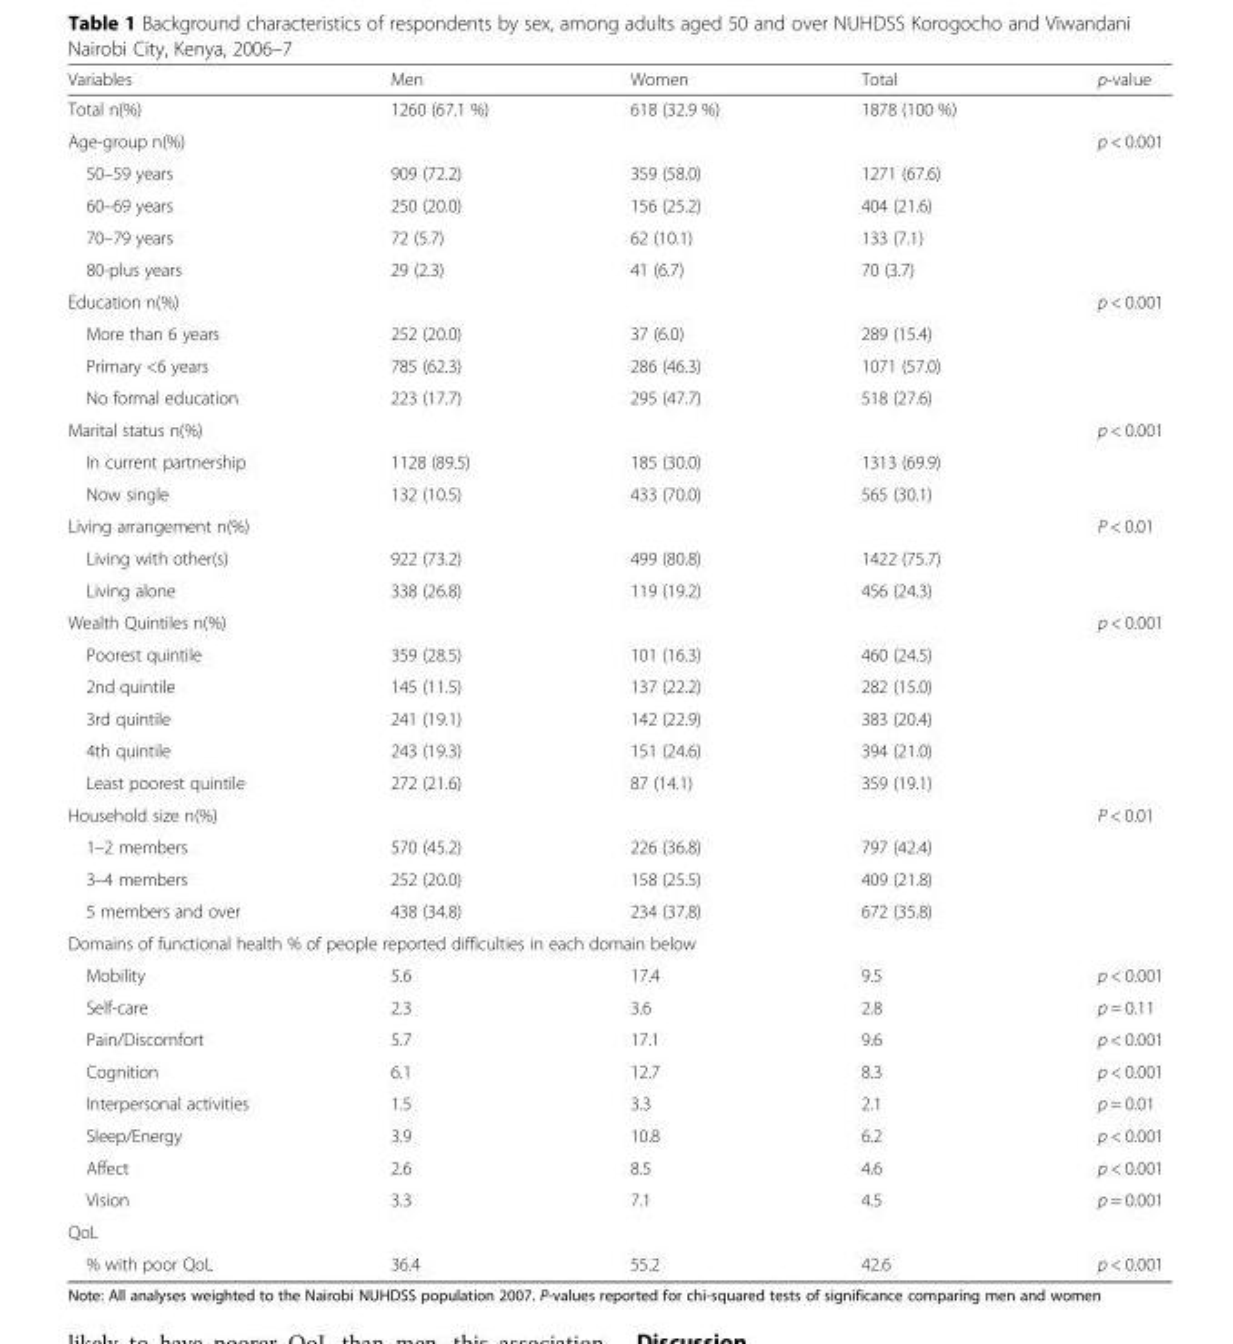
<table><thead><tr><td>Variables</td><td>Men</td><td>Women</td><td>Total</td><td>p-value</td></tr></thead><tbody><tr><td>Total n(%)</td><td>1260 (67.1 %)</td><td>618 (32.9 %)</td><td>1878 (100 %)</td><td></td></tr><tr><td>Age-group n(%)</td><td></td><td></td><td></td><td>p &lt; 0.001</td></tr><tr><td>50–59 years</td><td>909 (72.2)</td><td>359 (58.0)</td><td>1271 (67.6)</td><td></td></tr><tr><td>60–69 years</td><td>250 (20.0)</td><td>156 (25.2)</td><td>404 (21.6)</td><td></td></tr><tr><td>70–79 years</td><td>72 (5.7)</td><td>62 (10.1)</td><td>133 (7.1)</td><td></td></tr><tr><td>80-plus years</td><td>29 (2.3)</td><td>41 (6.7)</td><td>70 (3.7)</td><td></td></tr><tr><td>Education n(%)</td><td></td><td></td><td></td><td>p &lt; 0.001</td></tr><tr><td>More than 6 years</td><td>252 (20.0)</td><td>37 (6.0)</td><td>289 (15.4)</td><td></td></tr><tr><td>Primary &lt;6 years</td><td>785 (62.3)</td><td>286 (46.3)</td><td>1071 (57.0)</td><td></td></tr><tr><td>No formal education</td><td>223 (17.7)</td><td>295 (47.7)</td><td>518 (27.6)</td><td></td></tr><tr><td>Marital status n(%)</td><td></td><td></td><td></td><td>p &lt; 0.001</td></tr><tr><td>In current partnership</td><td>1128 (89.5)</td><td>185 (30.0)</td><td>1313 (69.9)</td><td></td></tr><tr><td>Now single</td><td>132 (10.5)</td><td>433 (70.0)</td><td>565 (30.1)</td><td></td></tr><tr><td>Living arrangement n(%)</td><td></td><td></td><td></td><td>P &lt; 0.01</td></tr><tr><td>Living with other(s)</td><td>922 (73.2)</td><td>499 (80.8)</td><td>1422 (75.7)</td><td></td></tr><tr><td>Living alone</td><td>338 (26.8)</td><td>119 (19.2)</td><td>456 (24.3)</td><td></td></tr><tr><td>Wealth Quintiles n(%)</td><td></td><td></td><td></td><td>p &lt; 0.001</td></tr><tr><td>Poorest quintile</td><td>359 (28.5)</td><td>101 (16.3)</td><td>460 (24.5)</td><td></td></tr><tr><td>2nd quintile</td><td>145 (11.5)</td><td>137 (22.2)</td><td>282 (15.0)</td><td></td></tr><tr><td>3rd quintile</td><td>241 (19.1)</td><td>142 (22.9)</td><td>383 (20.4)</td><td></td></tr><tr><td>4th quintile</td><td>243 (19.3)</td><td>151 (24.6)</td><td>394 (21.0)</td><td></td></tr><tr><td>Least poorest quintile</td><td>272 (21.6)</td><td>87 (14.1)</td><td>359 (19.1)</td><td></td></tr><tr><td>Household size n(%)</td><td></td><td></td><td></td><td>P &lt; 0.01</td></tr><tr><td>1–2 members</td><td>570 (45.2)</td><td>226 (36.8)</td><td>797 (42.4)</td><td></td></tr><tr><td>3–4 members</td><td>252 (20.0)</td><td>158 (25.5)</td><td>409 (21.8)</td><td></td></tr><tr><td>5 members and over</td><td>438 (34.8)</td><td>234 (37.8)</td><td>672 (35.8)</td><td></td></tr><tr><td colspan="5">Domains of functional health % of people reported difficulties in each domain below</td></tr><tr><td>Mobility</td><td>5.6</td><td>17.4</td><td>9.5</td><td>p &lt; 0.001</td></tr><tr><td>Self-care</td><td>2.3</td><td>3.6</td><td>2.8</td><td>p = 0.11</td></tr><tr><td>Pain/Discomfort</td><td>5.7</td><td>17.1</td><td>9.6</td><td>p &lt; 0.001</td></tr><tr><td>Cognition</td><td>6.1</td><td>12.7</td><td>8.3</td><td>p &lt; 0.001</td></tr><tr><td>Interpersonal activities</td><td>1.5</td><td>3.3</td><td>2.1</td><td>p = 0.01</td></tr><tr><td>Sleep/Energy</td><td>3.9</td><td>10.8</td><td>6.2</td><td>p &lt; 0.001</td></tr><tr><td>Affect</td><td>2.6</td><td>8.5</td><td>4.6</td><td>p &lt; 0.001</td></tr><tr><td>Vision</td><td>3.3</td><td>7.1</td><td>4.5</td><td>p = 0.001</td></tr><tr><td colspan="5">QoL</td></tr><tr><td>% with poor QoL</td><td>36.4</td><td>55.2</td><td>42.6</td><td>p &lt; 0.001</td></tr></tbody></table>